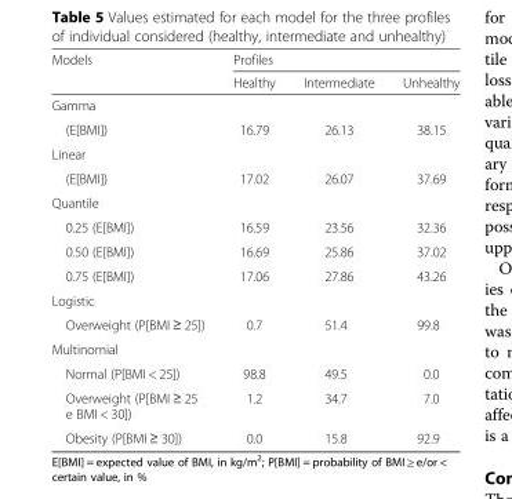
<table><thead><tr><td rowspan="2">Models</td><td colspan="3">Profiles</td></tr><tr><td>Healthy</td><td>Intermediate</td><td>Unhealthy</td></tr></thead><tbody><tr><td colspan="4">Gamma</td></tr><tr><td>(E[BMI])</td><td>16.79</td><td>26.13</td><td>38.15</td></tr><tr><td colspan="4">Linear</td></tr><tr><td>(E[BMI])</td><td>17.02</td><td>26.07</td><td>37.69</td></tr><tr><td colspan="4">Quantile</td></tr><tr><td>0.25 (E[BMI])</td><td>16.59</td><td>23.56</td><td>32.36</td></tr><tr><td>0.50 (E[BMI])</td><td>16.69</td><td>25.86</td><td>37.02</td></tr><tr><td>0.75 (E[BMI])</td><td>17.06</td><td>27.86</td><td>43.26</td></tr><tr><td colspan="4">Logistic</td></tr><tr><td>Overweight (P[BMI ≥ 25])</td><td>0.7</td><td>51.4</td><td>99.8</td></tr><tr><td colspan="4">Multinomial</td></tr><tr><td>Normal (P[BMI &lt; 25])</td><td>98.8</td><td>49.5</td><td>0.0</td></tr><tr><td>Overweight (P[BMI ≥ 25 e BMI &lt; 30])</td><td>1.2</td><td>34.7</td><td>7.0</td></tr><tr><td>Obesity (P[BMI ≥ 30])</td><td>0.0</td><td>15.8</td><td>92.9</td></tr></tbody></table>